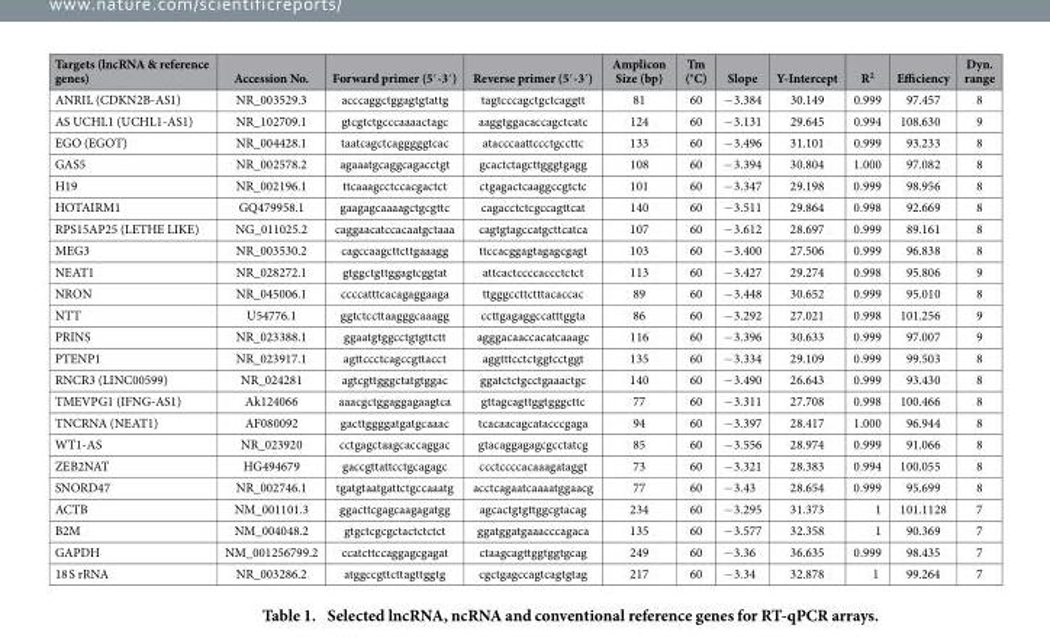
<table><thead><tr><td>Targets (lncRNA &amp; reference genes)</td><td>Accession No.</td><td>Forward primer (5′ -3′ )</td><td>Reverse primer (5′ -3′ )</td><td>Amplicon Size (bp)</td><td>Tm (°C)</td><td>Slope</td><td>Y-Intercept</td><td>R<sup>2</sup></td><td>Efficiency</td><td>Dyn. range</td></tr></thead><tbody><tr><td>ANRIL (CDKN2B-AS1)</td><td>NR_003529.3</td><td>acccaggctggagtgtattg</td><td>tagtcccagctgctcaggtt</td><td>81</td><td>60</td><td>− 3.384</td><td>30.149</td><td>0.999</td><td>97.457</td><td>8</td></tr><tr><td>AS UCHL1 (UCHL1-AS1)</td><td>NR_102709.1</td><td>gtcgtctgcccaaaactagc</td><td>aaggtggacaccagctcatc</td><td>124</td><td>60</td><td>− 3.131</td><td>29.645</td><td>0.994</td><td>108.630</td><td>9</td></tr><tr><td>EGO (EGOT)</td><td>NR_004428.1</td><td>taatcagctcagggggtcac</td><td>atacccaattccctgccttc</td><td>133</td><td>60</td><td>− 3.496</td><td>31.101</td><td>0.999</td><td>93.233</td><td>8</td></tr><tr><td>GAS5</td><td>NR_002578.2</td><td>agaaatgcaggcagacctgt</td><td>gcactctagcttgggtgagg</td><td>108</td><td>60</td><td>− 3.394</td><td>30.804</td><td>1.000</td><td>97.082</td><td>8</td></tr><tr><td>H19</td><td>NR_002196.1</td><td>ttcaaagcctccacgactct</td><td>ctgagactcaaggccgtctc</td><td>101</td><td>60</td><td>− 3.347</td><td>29.198</td><td>0.999</td><td>98.956</td><td>8</td></tr><tr><td>HOTAIRM1</td><td>GQ479958.1</td><td>gaagagcaaaagctgcgttc</td><td>cagacctctcgccagttcat</td><td>140</td><td>60</td><td>− 3.511</td><td>29.864</td><td>0.998</td><td>92.669</td><td>8</td></tr><tr><td>RPS15AP25 (LETHE LIKE)</td><td>NG_011025.2</td><td>caggaacatccacaatgctaaa</td><td>cagtgtagccatgcttcatca</td><td>107</td><td>60</td><td>− 3.612</td><td>28.697</td><td>0.999</td><td>89.161</td><td>8</td></tr><tr><td>MEG3</td><td>NR_003530.2</td><td>cagccaagcttcttgaaagg</td><td>ttccacggagtagagcgagt</td><td>103</td><td>60</td><td>− 3.400</td><td>27.506</td><td>0.999</td><td>96.838</td><td>8</td></tr><tr><td>NEAT1</td><td>NR_028272.1</td><td>gtggctgttggagtcggtat</td><td>attcactccccaccctctct</td><td>113</td><td>60</td><td>− 3.427</td><td>29.274</td><td>0.998</td><td>95.806</td><td>9</td></tr><tr><td>NRON</td><td>NR_045006.1</td><td>ccccatttcacagaggaaga</td><td>ttgggccttctttacaccac</td><td>89</td><td>60</td><td>− 3.448</td><td>30.652</td><td>0.999</td><td>95.010</td><td>8</td></tr><tr><td>NTT</td><td>U54776.1</td><td>ggtctccttaagggcaaagg</td><td>ccttgagaggccatttggta</td><td>86</td><td>60</td><td>− 3.292</td><td>27.021</td><td>0.998</td><td>101.256</td><td>9</td></tr><tr><td>PRINS</td><td>NR_023388.1</td><td>ggaatgtggcctgtgttctt</td><td>agggacaaccacatcaaagc</td><td>116</td><td>60</td><td>− 3.396</td><td>30.633</td><td>0.999</td><td>97.007</td><td>9</td></tr><tr><td>PTENP1</td><td>NR_023917.1</td><td>agttccctcagccgttacct</td><td>aggtttcctctggtcctggt</td><td>135</td><td>60</td><td>− 3.334</td><td>29.109</td><td>0.999</td><td>99.503</td><td>8</td></tr><tr><td>RNCR3 (LINC00599)</td><td>NR_024281</td><td>agtcgttgggctatgtggac</td><td>ggatctctgcctgaaactgc</td><td>140</td><td>60</td><td>− 3.490</td><td>26.643</td><td>0.999</td><td>93.430</td><td>8</td></tr><tr><td>TMEVPG1 (IFNG-AS1)</td><td>Ak124066</td><td>aaacgctggaggagaagtca</td><td>gttagcagttggtgggcttc</td><td>77</td><td>60</td><td>− 3.311</td><td>27.708</td><td>0.998</td><td>100.466</td><td>8</td></tr><tr><td>TNCRNA (NEAT1)</td><td>AF080092</td><td>gacttggggatgatgcaaac</td><td>tcacaacagcatacccgaga</td><td>94</td><td>60</td><td>− 3.397</td><td>28.417</td><td>1.000</td><td>96.944</td><td>8</td></tr><tr><td>WT1-AS</td><td>NR_023920</td><td>cctgagctaagcaccaggac</td><td>gtacaggagagcgcctatcg</td><td>85</td><td>60</td><td>− 3.556</td><td>28.974</td><td>0.999</td><td>91.066</td><td>8</td></tr><tr><td>ZEB2NAT</td><td>HG494679</td><td>gaccgttattcctgcagagc</td><td>ccctccccacaaagataggt</td><td>73</td><td>60</td><td>− 3.321</td><td>28.383</td><td>0.994</td><td>100.055</td><td>8</td></tr><tr><td>SNORD47</td><td>NR_002746.1</td><td>tgatgtaatgattctgccaaatg</td><td>acctcagaatcaaaatggaacg</td><td>77</td><td>60</td><td>− 3.43</td><td>28.654</td><td>0.999</td><td>95.699</td><td>8</td></tr><tr><td>ACTB</td><td>NM_001101.3</td><td>ggacttcgagcaagagatgg</td><td>agcactgtgttggcgtacag</td><td>234</td><td>60</td><td>− 3.295</td><td>31.373</td><td>1</td><td>101.1128</td><td>7</td></tr><tr><td>B2M</td><td>NM_004048.2</td><td>gtgctcgcgctactctctct</td><td>ggatggatgaaacccagaca</td><td>135</td><td>60</td><td>− 3.577</td><td>32.358</td><td>1</td><td>90.369</td><td>7</td></tr><tr><td>GAPDH</td><td>NM_001256799.2</td><td>ccatcttccaggagcgagat</td><td>ctaagcagttggtggtgcag</td><td>249</td><td>60</td><td>− 3.36</td><td>36.635</td><td>0.999</td><td>98.435</td><td>7</td></tr><tr><td>18 S rRNA</td><td>NR_003286.2</td><td>atggccgttcttagttggtg</td><td>cgctgagccagtcagtgtag</td><td>217</td><td>60</td><td>− 3.34</td><td>32.878</td><td>1</td><td>99.264</td><td>7</td></tr></tbody></table>